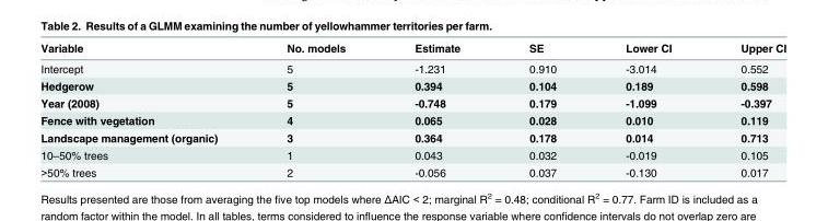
<table><thead><tr><td>Variable</td><td>No. models</td><td>Estimate</td><td>SE</td><td>Lower CI</td><td>Upper CI</td></tr></thead><tbody><tr><td>Intercept</td><td>5</td><td>-1.231</td><td>0.910</td><td>-3.014</td><td>0.552</td></tr><tr><td>Hedgerow</td><td>5</td><td>0.394</td><td>0.104</td><td>0.189</td><td>0.598</td></tr><tr><td>Year (2008)</td><td>5</td><td>-0.748</td><td>0.179</td><td>-1.099</td><td>-0.397</td></tr><tr><td>Fence with vegetation</td><td>4</td><td>0.065</td><td>0.028</td><td>0.010</td><td>0.119</td></tr><tr><td>Landscape management (organic)</td><td>3</td><td>0.364</td><td>0.178</td><td>0.014</td><td>0.713</td></tr><tr><td>10–50% trees</td><td>1</td><td>0.043</td><td>0.032</td><td>-0.019</td><td>0.105</td></tr><tr><td>&gt;50% trees</td><td>2</td><td>-0.056</td><td>0.037</td><td>-0.130</td><td>0.017</td></tr></tbody></table>